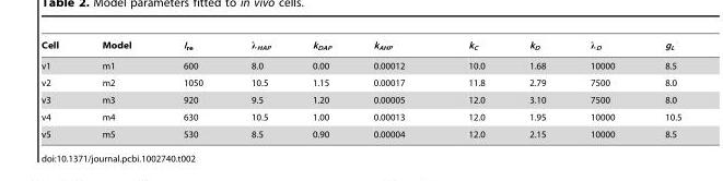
<table><thead><tr><td>Cell</td><td>Model</td><td>I<sub>re</sub></td><td>λ<sub>HAP</sub></td><td>k<sub>DAP</sub></td><td>k<sub>AHP</sub></td><td>k<sub>C</sub></td><td>k<sub>D</sub></td><td>λ<sub>D</sub></td><td>g<sub>L</sub></td></tr></thead><tbody><tr><td>v1</td><td>m1</td><td>600</td><td>8.0</td><td>0.00</td><td>0.00012</td><td>10.0</td><td>1.68</td><td>10000</td><td>8.5</td></tr><tr><td>v2</td><td>m2</td><td>1050</td><td>10.5</td><td>1.15</td><td>0.00017</td><td>11.8</td><td>2.79</td><td>7500</td><td>8.0</td></tr><tr><td>v3</td><td>m3</td><td>920</td><td>9.5</td><td>1.20</td><td>0.00005</td><td>12.0</td><td>3.10</td><td>7500</td><td>8.0</td></tr><tr><td>v4</td><td>m4</td><td>630</td><td>10.5</td><td>1.00</td><td>0.00013</td><td>12.0</td><td>1.95</td><td>10000</td><td>10.5</td></tr><tr><td>v5</td><td>m5</td><td>530</td><td>8.5</td><td>0.90</td><td>0.00004</td><td>12.0</td><td>2.15</td><td>10000</td><td>8.5</td></tr></tbody></table>